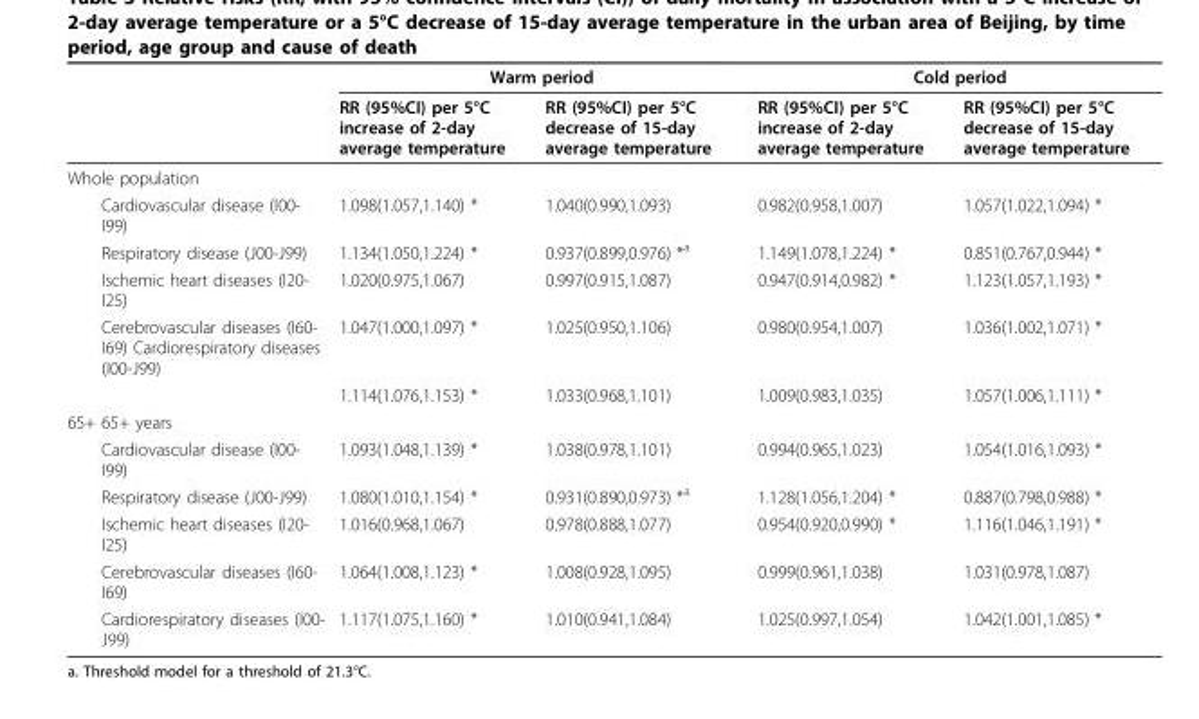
<table><thead><tr><td rowspan="2"></td><td colspan="2">Warm period</td><td colspan="2">Cold period</td></tr><tr><td>RR (95%CI) per 5°C increase of 2-day average temperature</td><td>RR (95%CI) per 5°C decrease of 15-day average temperature</td><td>RR (95%CI) per 5°C increase of 2-day average temperature</td><td>RR (95%CI) per 5°C decrease of 15-day average temperature</td></tr></thead><tbody><tr><td colspan="5">Whole population</td></tr><tr><td>Cardiovascular disease (I00- I99)</td><td>1.098(1.057,1.140) *</td><td>1.040(0.990,1.093)</td><td>0.982(0.958,1.007)</td><td>1.057(1.022,1.094) *</td></tr><tr><td>Respiratory disease (J00-J99)</td><td>1.134(1.050,1.224) *</td><td>0.937(0.899,0.976) *<sup>a</sup></td><td>1.149(1.078,1.224) *</td><td>0.851(0.767,0.944) *</td></tr><tr><td>Ischemic heart diseases (I20- I25)</td><td>1.020(0.975,1.067)</td><td>0.997(0.915,1.087)</td><td>0.947(0.914,0.982) *</td><td>1.123(1.057,1.193) *</td></tr><tr><td rowspan="2">Cerebrovascular diseases (I60- I69) Cardiorespiratory diseases (I00-J99)</td><td>1.047(1.000,1.097) *</td><td>1.025(0.950,1.106)</td><td>0.980(0.954,1.007)</td><td>1.036(1.002,1.071) *</td></tr><tr><td>1.114(1.076,1.153) *</td><td>1.033(0.968,1.101)</td><td>1.009(0.983,1.035)</td><td>1.057(1.006,1.111) *</td></tr><tr><td colspan="5">65+ 65+ years</td></tr><tr><td>Cardiovascular disease (I00- I99)</td><td>1.093(1.048,1.139) *</td><td>1.038(0.978,1.101)</td><td>0.994(0.965,1.023)</td><td>1.054(1.016,1.093) *</td></tr><tr><td>Respiratory disease (J00-J99)</td><td>1.080(1.010,1.154) *</td><td>0.931(0.890,0.973) *<sup>a</sup></td><td>1.128(1.056,1.204) *</td><td>0.887(0.798,0.988) *</td></tr><tr><td>Ischemic heart diseases (I20- I25)</td><td>1.016(0.968,1.067)</td><td>0.978(0.888,1.077)</td><td>0.954(0.920,0.990) *</td><td>1.116(1.046,1.191) *</td></tr><tr><td>Cerebrovascular diseases (I60- I69)</td><td>1.064(1.008,1.123) *</td><td>1.008(0.928,1.095)</td><td>0.999(0.961,1.038)</td><td>1.031(0.978,1.087)</td></tr><tr><td>Cardiorespiratory diseases (I00- J99)</td><td>1.117(1.075,1.160) *</td><td>1.010(0.941,1.084)</td><td>1.025(0.997,1.054)</td><td>1.042(1.001,1.085) *</td></tr></tbody></table>